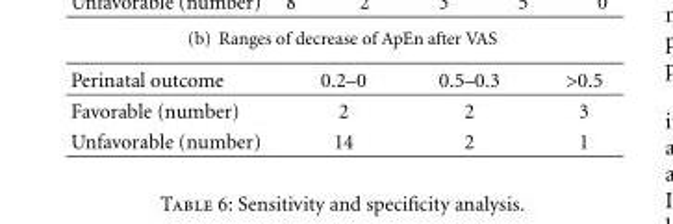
<table><thead><tr><td>Perinatal outcome</td><td>0.2–0</td><td>0.5–0.3</td><td>&gt;0.5</td></tr></thead><tbody><tr><td>Favorable (number)</td><td>2</td><td>2</td><td>3</td></tr><tr><td>Unfavorable (number)</td><td>14</td><td>2</td><td>1</td></tr></tbody></table>